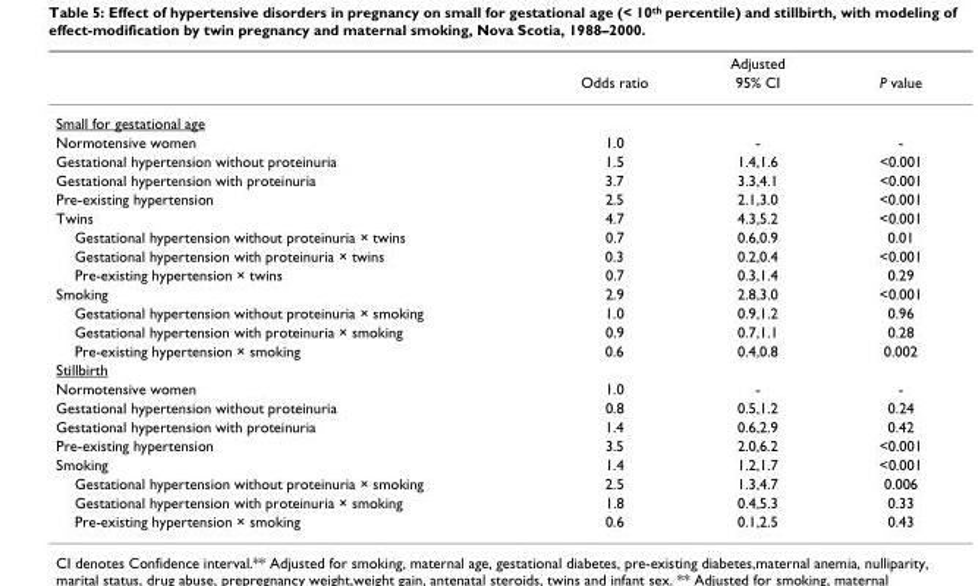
<table><thead><tr><td rowspan="2"></td><td colspan="3">Adjusted</td></tr><tr><td>Odds ratio</td><td>95% CI</td><td>P value</td></tr></thead><tbody><tr><td colspan="4">Small for gestational age</td></tr><tr><td>Normotensive women</td><td>1.0</td><td>-</td><td>-</td></tr><tr><td>Gestational hypertension without proteinuria</td><td>1.5</td><td>1.4,1.6</td><td>&lt;0.001</td></tr><tr><td>Gestational hypertension with proteinuria</td><td>3.7</td><td>3.3,4.1</td><td>&lt;0.001</td></tr><tr><td>Pre-existing hypertension</td><td>2.5</td><td>2.1,3.0</td><td>&lt;0.001</td></tr><tr><td>Twins</td><td>4.7</td><td>4.3,5.2</td><td>&lt;0.001</td></tr><tr><td>Gestational hypertension without proteinuria × twins</td><td>0.7</td><td>0.6,0.9</td><td>0.01</td></tr><tr><td>Gestational hypertension with proteinuria × twins</td><td>0.3</td><td>0.2,0.4</td><td>&lt;0.001</td></tr><tr><td>Pre-existing hypertension × twins</td><td>0.7</td><td>0.3,1.4</td><td>0.29</td></tr><tr><td>Smoking</td><td>2.9</td><td>2.8,3.0</td><td>&lt;0.001</td></tr><tr><td>Gestational hypertension without proteinuria × smoking</td><td>1.0</td><td>0.9,1.2</td><td>0.96</td></tr><tr><td>Gestational hypertension with proteinuria × smoking</td><td>0.9</td><td>0.7,1.1</td><td>0.28</td></tr><tr><td>Pre-existing hypertension × smoking</td><td>0.6</td><td>0.4,0.8</td><td>0.002</td></tr><tr><td colspan="4">Stillbirth</td></tr><tr><td>Normotensive women</td><td>1.0</td><td>-</td><td>-</td></tr><tr><td>Gestational hypertension without proteinuria</td><td>0.8</td><td>0.5,1.2</td><td>0.24</td></tr><tr><td>Gestational hypertension with proteinuria</td><td>1.4</td><td>0.6,2.9</td><td>0.42</td></tr><tr><td>Pre-existing hypertension</td><td>3.5</td><td>2.0,6.2</td><td>&lt;0.001</td></tr><tr><td>Smoking</td><td>1.4</td><td>1.2,1.7</td><td>&lt;0.001</td></tr><tr><td>Gestational hypertension without proteinuria × smoking</td><td>2.5</td><td>1.3,4.7</td><td>0.006</td></tr><tr><td>Gestational hypertension with proteinuria × smoking</td><td>1.8</td><td>0.4,5.3</td><td>0.33</td></tr><tr><td>Pre-existing hypertension × smoking</td><td>0.6</td><td>0.1,2.5</td><td>0.43</td></tr></tbody></table>